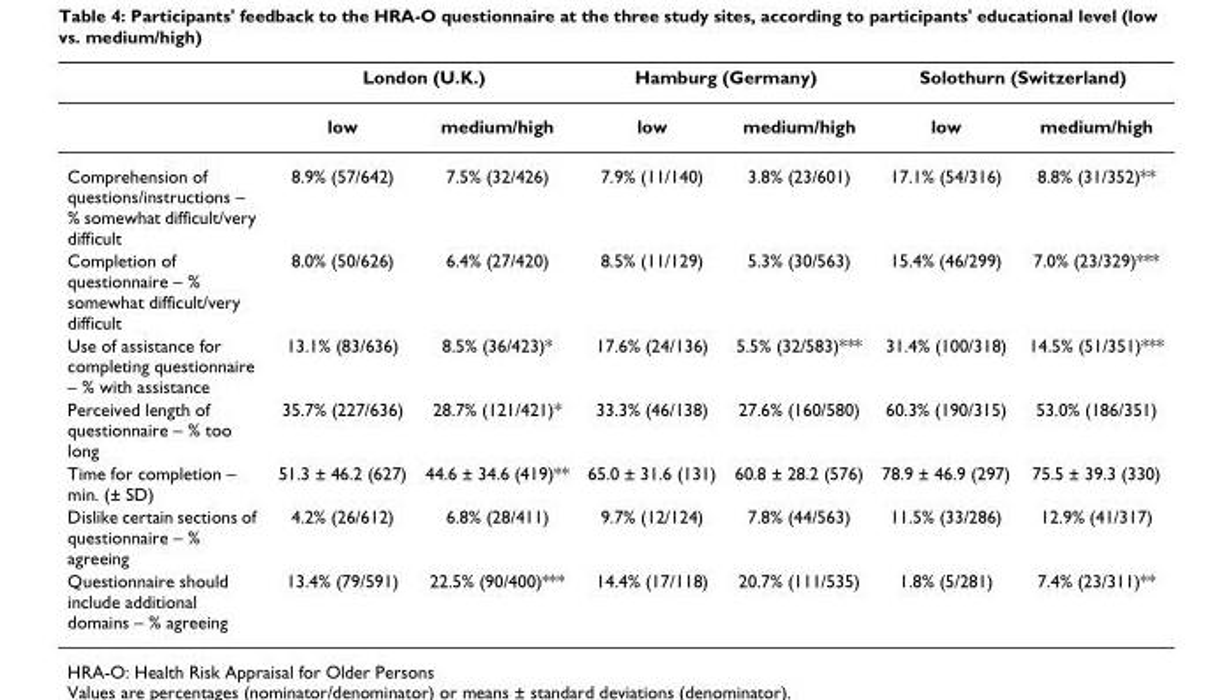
<table><thead><tr><td rowspan="2"></td><td colspan="2">London (U.K.)</td><td colspan="2">Hamburg (Germany)</td><td colspan="2">Solothurn (Switzerland)</td></tr><tr><td>low</td><td>medium/high</td><td>low</td><td>medium/high</td><td>low</td><td>medium/high</td></tr></thead><tbody><tr><td>Comprehension of questions/instructions – % somewhat difficult/very difficult</td><td>8.9% (57/642)</td><td>7.5% (32/426)</td><td>7.9% (11/140)</td><td>3.8% (23/601)</td><td>17.1% (54/316)</td><td>8.8% (31/352)**</td></tr><tr><td>Completion of questionnaire – % somewhat difficult/very difficult</td><td>8.0% (50/626)</td><td>6.4% (27/420)</td><td>8.5% (11/129)</td><td>5.3% (30/563)</td><td>15.4% (46/299)</td><td>7.0% (23/329)***</td></tr><tr><td>Use of assistance for completing questionnaire – % with assistance</td><td>13.1% (83/636)</td><td>8.5% (36/423)*</td><td>17.6% (24/136)</td><td>5.5% (32/583)***</td><td>31.4% (100/318)</td><td>14.5% (51/351)***</td></tr><tr><td>Perceived length of questionnaire – % too long</td><td>35.7% (227/636)</td><td>28.7% (121/421)*</td><td>33.3% (46/138)</td><td>27.6% (160/580)</td><td>60.3% (190/315)</td><td>53.0% (186/351)</td></tr><tr><td>Time for completion – min. (± SD)</td><td>51.3 ± 46.2 (627)</td><td>44.6 ± 34.6 (419)**</td><td>65.0 ± 31.6 (131)</td><td>60.8 ± 28.2 (576)</td><td>78.9 ± 46.9 (297)</td><td>75.5 ± 39.3 (330)</td></tr><tr><td>Dislike certain sections of questionnaire – % agreeing</td><td>4.2% (26/612)</td><td>6.8% (28/411)</td><td>9.7% (12/124)</td><td>7.8% (44/563)</td><td>11.5% (33/286)</td><td>12.9% (41/317)</td></tr><tr><td>Questionnaire should include additional domains – % agreeing</td><td>13.4% (79/591)</td><td>22.5% (90/400)***</td><td>14.4% (17/118)</td><td>20.7% (111/535)</td><td>1.8% (5/281)</td><td>7.4% (23/311)**</td></tr></tbody></table>